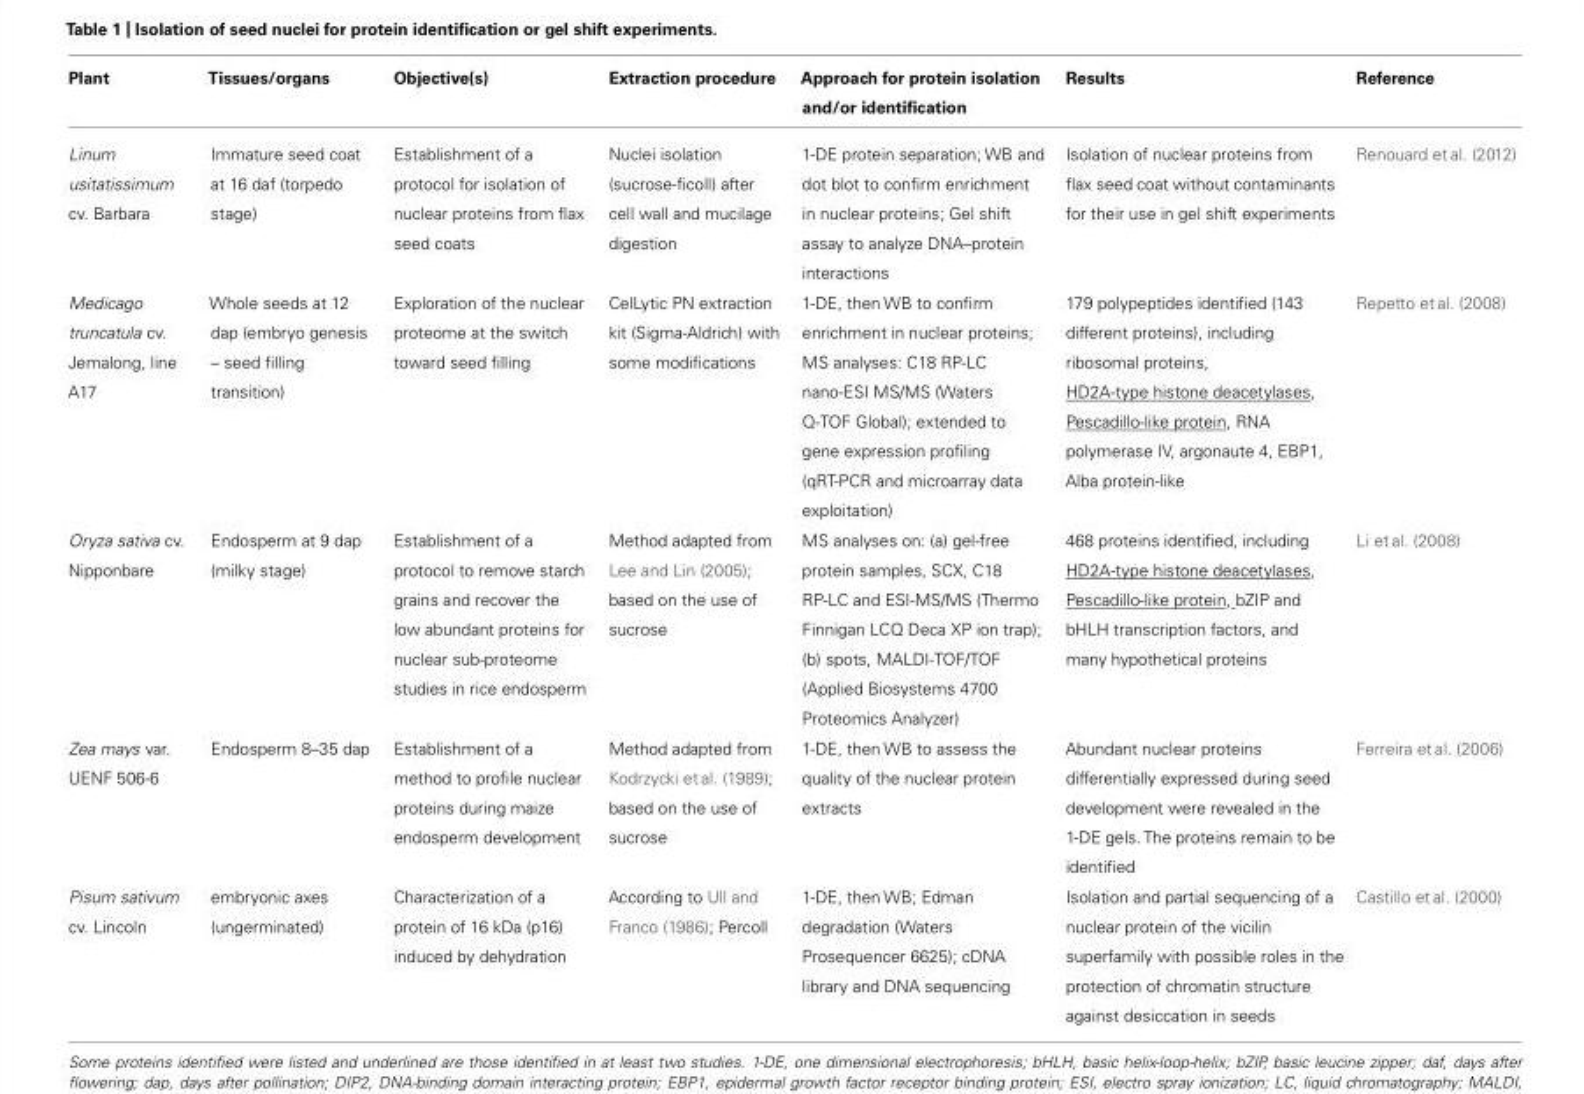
<table><thead><tr><td>Plant</td><td>Tissues/organs</td><td>Objective(s)</td><td>Extraction procedure</td><td>Approach for protein isolation and/or identification</td><td>Results</td><td>Reference</td></tr></thead><tbody><tr><td>Linum usitatissimum cv. Barbara</td><td>Immature seed coat at 16 daf (torpedo stage)</td><td>Establishment of a protocol for isolation of nuclear proteins from flax seed coats</td><td>Nuclei isolation (sucrose-ficoll) after cell wall and mucilage digestion</td><td>1-DE protein separation; WB and dot blot to confirm enrichment in nuclear proteins; Gel shift assay to analyze DNA–protein interactions</td><td>Isolation of nuclear proteins from flax seed coat without contaminants for their use in gel shift experiments</td><td>Renouard et al. (2012)</td></tr><tr><td>Medicago truncatula cv. Jemalong, line A17</td><td>Whole seeds at 12 dap (embryo genesis – seed filling transition)</td><td>Exploration of the nuclear proteome at the switch toward seed filling</td><td>CelLytic PN extraction kit (Sigma-Aldrich) with some modifications</td><td>1-DE, then WB to confirm enrichment in nuclear proteins; MS analyses: C18 RP-LC nano-ESI MS/MS (Waters Q-TOF Global); extended to gene expression profiling (qRT-PCR and microarray data exploitation)</td><td>179 polypeptides identified (143 different proteins), including ribosomal proteins, HD2A-type histone deacetylases, Pescadillo-like protein, RNA polymerase IV, argonaute 4, EBP1, Alba protein-like</td><td>Repetto et al. (2008)</td></tr><tr><td>Oryza sativa cv. Nipponbare</td><td>Endosperm at 9 dap (milky stage)</td><td>Establishment of a protocol to remove starch grains and recover the low abundant proteins for nuclear sub-proteome studies in rice endosperm</td><td>Method adapted from Lee and Lin (2005); based on the use of sucrose</td><td>MS analyses on: (a) gel-free protein samples, SCX, C18 RP-LC and ESI-MS/MS (Thermo Finnigan LCQ Deca XP ion trap); (b) spots, MALDI-TOF/TOF (Applied Biosystems 4700 Proteomics Analyzer)</td><td>468 proteins identified, including HD2A-type histone deacetylases, Pescadillo-like protein, bZIP and bHLH transcription factors, and many hypothetical proteins</td><td>Li et al. (2008)</td></tr><tr><td>Zea mays var. UENF 506-6</td><td>Endosperm 8–35 dap</td><td>Establishment of a method to profile nuclear proteins during maize endosperm development</td><td>Method adapted from Kodrzycki et al. (1989); based on the use of sucrose</td><td>1-DE, then WB to assess the quality of the nuclear protein extracts</td><td>Abundant nuclear proteins differentially expressed during seed development were revealed in the 1-DE gels.The proteins remain to be identified</td><td>Ferreira et al. (2006)</td></tr><tr><td>Pisum sativum cv. Lincoln</td><td>embryonic axes (ungerminated)</td><td>Characterization of a protein of 16 kDa (p16) induced by dehydration</td><td>According to Ull and Franco (1986); Percoll</td><td>1-DE, then WB; Edman degradation (Waters Prosequencer 6625); cDNA library and DNA sequencing</td><td>Isolation and partial sequencing of a nuclear protein of the vicilin superfamily with possible roles in the protection of chromatin structure against desiccation in seeds</td><td>Castillo et al. (2000)</td></tr></tbody></table>